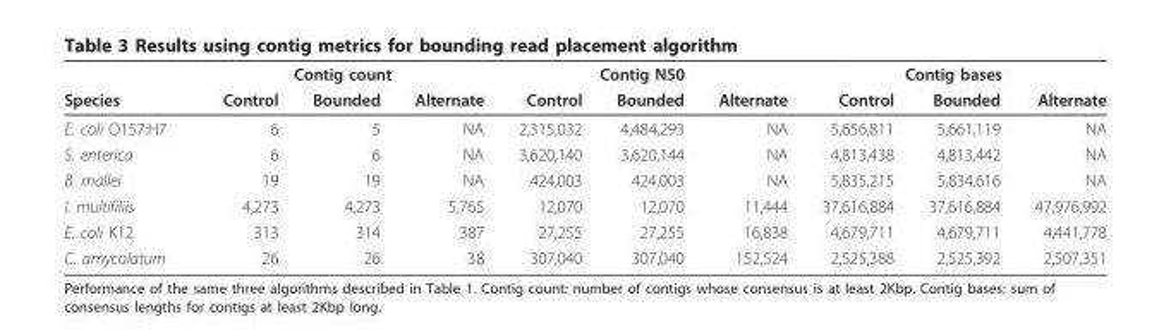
<table><thead><tr><td rowspan="2">Species</td><td colspan="3">Contig count</td><td colspan="3">Contig N50</td><td colspan="3">Contig bases</td></tr><tr><td>Control</td><td>Bounded</td><td>Alternate</td><td>Control</td><td>Bounded</td><td>Alternate</td><td>Control</td><td>Bounded</td><td>Alternate</td></tr></thead><tbody><tr><td>E. coli O157:H7</td><td>6</td><td>5</td><td>NA</td><td>2,315,032</td><td>4,484,293</td><td>NA</td><td>5,656,811</td><td>5,661,119</td><td>NA</td></tr><tr><td>S. enterica</td><td>6</td><td>6</td><td>NA</td><td>3,620,140</td><td>3,620,144</td><td>NA</td><td>4,813,438</td><td>4,813,442</td><td>NA</td></tr><tr><td>B. mallei</td><td>19</td><td>19</td><td>NA</td><td>424,003</td><td>424,003</td><td>NA</td><td>5,835,215</td><td>5,834,616</td><td>NA</td></tr><tr><td>I. multifiliis</td><td>4,273</td><td>4,273</td><td>5,765</td><td>12,070</td><td>12,070</td><td>11,444</td><td>37,616,884</td><td>37,616,884</td><td>47,976,992</td></tr><tr><td>E. coli K12</td><td>313</td><td>314</td><td>387</td><td>27,255</td><td>27,255</td><td>16,838</td><td>4,679,711</td><td>4,679,711</td><td>4,441,778</td></tr><tr><td>C. amycolatum</td><td>26</td><td>26</td><td>38</td><td>307,040</td><td>307,040</td><td>152,524</td><td>2,525,388</td><td>2,525,392</td><td>2,507,351</td></tr></tbody></table>